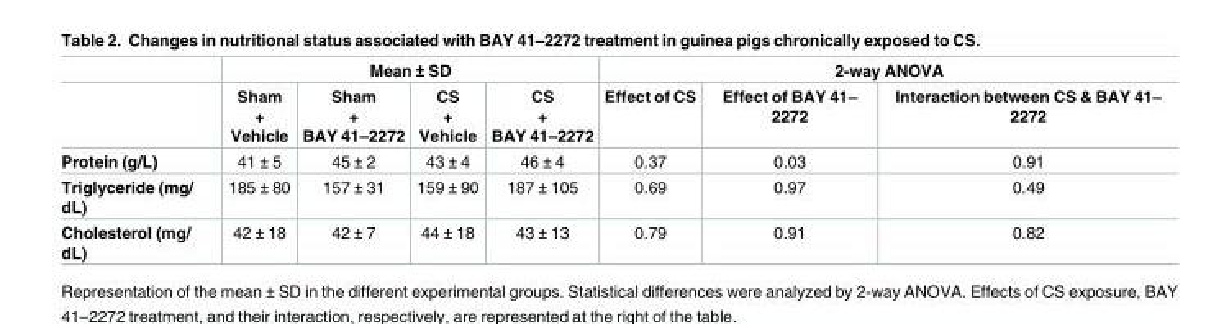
<table><thead><tr><td rowspan="2"></td><td colspan="4">Mean ± SD</td><td colspan="3">2-way ANOVA</td></tr><tr><td>Sham + Vehicle</td><td>Sham + BAY 41–2272</td><td>CS + Vehicle</td><td>CS + BAY 41–2272</td><td>Effect of CS</td><td>Effect of BAY 41– 2272</td><td>Interaction between CS &amp; BAY 41– 2272</td></tr></thead><tbody><tr><td>Protein (g/L)</td><td>41 ± 5</td><td>45 ± 2</td><td>43 ± 4</td><td>46 ± 4</td><td>0.37</td><td>0.03</td><td>0.91</td></tr><tr><td>Triglyceride (mg/ dL)</td><td>185 ± 80</td><td>157 ± 31</td><td>159 ± 90</td><td>187 ± 105</td><td>0.69</td><td>0.97</td><td>0.49</td></tr><tr><td>Cholesterol (mg/ dL)</td><td>42 ± 18</td><td>42 ± 7</td><td>44 ± 18</td><td>43 ± 13</td><td>0.79</td><td>0.91</td><td>0.82</td></tr></tbody></table>